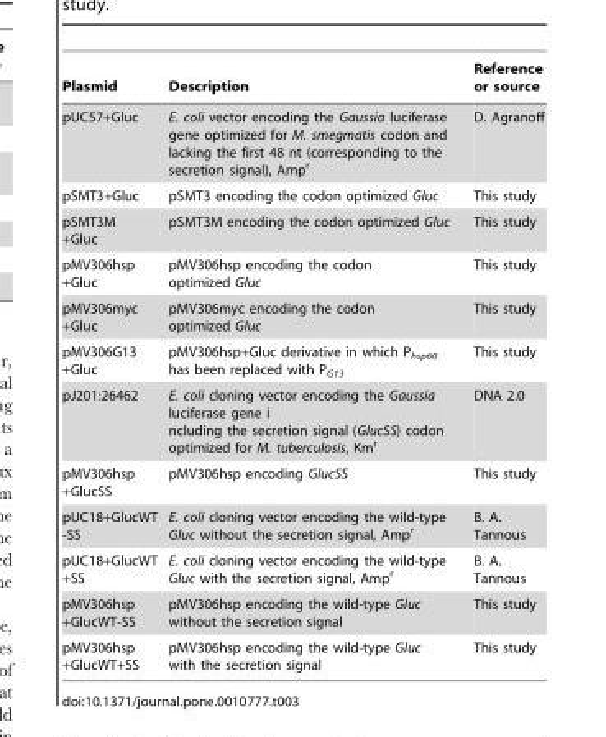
<table><thead><tr><td>Plasmid</td><td>Description</td><td>Reference or source</td></tr></thead><tbody><tr><td>pUC57+Gluc</td><td>E. coli vector encoding the Gaussia luciferase gene optimized for M. smegmatis codon and lacking the first 48 nt (corresponding to the secretion signal), Amp<sup>r</sup></td><td>D. Agranoff</td></tr><tr><td>pSMT3+Gluc</td><td>pSMT3 encoding the codon optimized Gluc</td><td>This study</td></tr><tr><td>pSMT3M +Gluc</td><td>pSMT3M encoding the codon optimized Gluc</td><td>This study</td></tr><tr><td>pMV306hsp +Gluc</td><td>pMV306hsp encoding the codon optimized Gluc</td><td>This study</td></tr><tr><td>pMV306myc +Gluc</td><td>pMV306myc encoding the codon optimized Gluc</td><td>This study</td></tr><tr><td>pMV306G13 +Gluc</td><td>pMV306hsp+Gluc derivative in which P<sub>hsp60</sub> has been replaced with P<sub>G13</sub></td><td>This study</td></tr><tr><td>pJ201:26462</td><td>E. coli cloning vector encoding the Gaussia luciferase gene i ncluding the secretion signal (GlucSS) codon optimized for M. tuberculosis, Km<sup>r</sup></td><td>DNA 2.0</td></tr><tr><td>pMV306hsp +GlucSS</td><td>pMV306hsp encoding GlucSS</td><td>This study</td></tr><tr><td>pUC18+GlucWT -SS</td><td>E. coli cloning vector encoding the wild-type Gluc without the secretion signal, Amp<sup>r</sup></td><td>B. A. Tannous</td></tr><tr><td>pUC18+GlucWT +SS</td><td>E. coli cloning vector encoding the wild-type Gluc with the secretion signal, Amp<sup>r</sup></td><td>B. A. Tannous</td></tr><tr><td>pMV306hsp +GlucWT-SS</td><td>pMV306hsp encoding the wild-type Gluc without the secretion signal</td><td>This study</td></tr><tr><td>pMV306hsp +GlucWT+SS</td><td>pMV306hsp encoding the wild-type Gluc with the secretion signal</td><td>This study</td></tr></tbody></table>